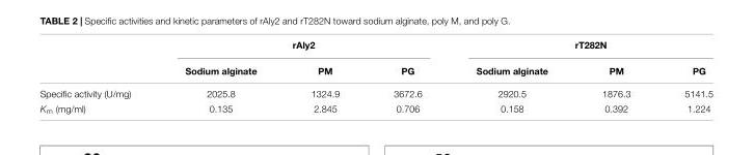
<table><thead><tr><td rowspan="2"></td><td colspan="3">rAly2</td><td colspan="3">rT282N</td></tr><tr><td>Sodium alginate</td><td>PM</td><td>PG</td><td>Sodium alginate</td><td>PM</td><td>PG</td></tr></thead><tbody><tr><td>Specific activity (U/mg)</td><td>2025.8</td><td>1324.9</td><td>3672.6</td><td>2920.5</td><td>1876.3</td><td>5141.5</td></tr><tr><td>K<sub>m</sub> (mg/ml)</td><td>0.135</td><td>2.845</td><td>0.706</td><td>0.158</td><td>0.392</td><td>1.224</td></tr></tbody></table>